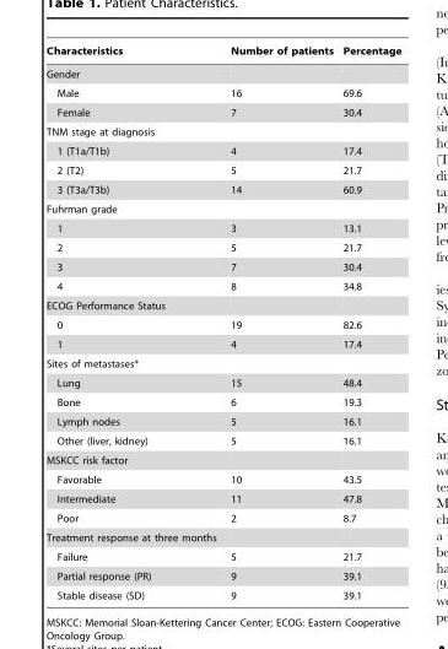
<table><thead><tr><td>Characteristics</td><td>Number of patients</td><td>Percentage</td></tr></thead><tbody><tr><td colspan="3">Gender</td></tr><tr><td>Male</td><td>16</td><td>69.6</td></tr><tr><td>Female</td><td>7</td><td>30.4</td></tr><tr><td colspan="3">TNM stage at diagnosis</td></tr><tr><td>1 (T1a/T1b)</td><td>4</td><td>17.4</td></tr><tr><td>2 (T2)</td><td>5</td><td>21.7</td></tr><tr><td>3 (T3a/T3b)</td><td>14</td><td>60.9</td></tr><tr><td colspan="3">Fuhrman grade</td></tr><tr><td>1</td><td>3</td><td>13.1</td></tr><tr><td>2</td><td>5</td><td>21.7</td></tr><tr><td>3</td><td>7</td><td>30.4</td></tr><tr><td>4</td><td>8</td><td>34.8</td></tr><tr><td colspan="3">ECOG Performance Status</td></tr><tr><td>0</td><td>19</td><td>82.6</td></tr><tr><td>1</td><td>4</td><td>17.4</td></tr><tr><td colspan="3">Sites of metastases*</td></tr><tr><td>Lung</td><td>15</td><td>48.4</td></tr><tr><td>Bone</td><td>6</td><td>19.3</td></tr><tr><td>Lymph nodes</td><td>5</td><td>16.1</td></tr><tr><td>Other (liver, kidney)</td><td>5</td><td>16.1</td></tr><tr><td colspan="3">MSKCC risk factor</td></tr><tr><td>Favorable</td><td>10</td><td>43.5</td></tr><tr><td>Intermediate</td><td>11</td><td>47.8</td></tr><tr><td>Poor</td><td>2</td><td>8.7</td></tr><tr><td colspan="3">Treatment response at three months</td></tr><tr><td>Failure</td><td>5</td><td>21.7</td></tr><tr><td>Partial response (PR)</td><td>9</td><td>39.1</td></tr><tr><td>Stable disease (SD)</td><td>9</td><td>39.1</td></tr></tbody></table>